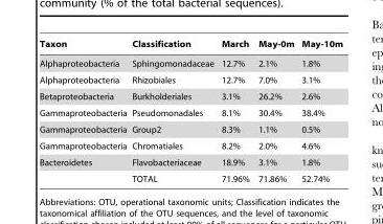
<table><thead><tr><td>Taxon</td><td>Classification</td><td>March</td><td>May-0m</td><td>May-10m</td></tr></thead><tbody><tr><td>Alphaproteobacteria</td><td>Sphingomonadaceae</td><td>12.7%</td><td>2.1%</td><td>1.8%</td></tr><tr><td>Alphaproteobacteria</td><td>Rhizobiales</td><td>12.7%</td><td>7.0%</td><td>3.1%</td></tr><tr><td>Betaproteobacteria</td><td>Burkholderiales</td><td>3.1%</td><td>26.2%</td><td>2.6%</td></tr><tr><td>Gammaproteobacteria</td><td>Pseudomonadales</td><td>8.1%</td><td>30.4%</td><td>38.4%</td></tr><tr><td>Gammaproteobacteria</td><td>Group2</td><td>8.3%</td><td>1.1%</td><td>0.5%</td></tr><tr><td>Gammaproteobacteria</td><td>Chromatiales</td><td>8.2%</td><td>2.0%</td><td>4.6%</td></tr><tr><td rowspan="2">Bacteroidetes</td><td>Flavobacteriaceae</td><td>18.9%</td><td>3.1%</td><td>1.8%</td></tr><tr><td>TOTAL</td><td>71.96%</td><td>71.86%</td><td>52.74%</td></tr></tbody></table>